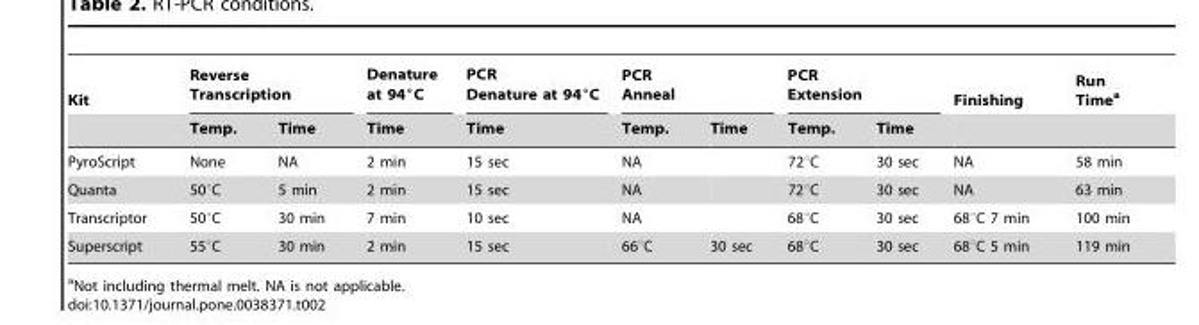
<table><thead><tr><td rowspan="2">Kit</td><td colspan="2">Reverse Transcription</td><td rowspan="2">Denature at 94°C Time</td><td rowspan="2">PCR Denature at 94°C Time</td><td colspan="2">PCR Anneal</td><td colspan="2">PCR Extension</td><td rowspan="2">Finishing</td><td rowspan="2">Run Time<sup>a</sup></td></tr><tr><td>Temp.</td><td>Time</td><td>Temp.</td><td>Time</td><td>Temp.</td><td>Time</td></tr></thead><tbody><tr><td>PyroScript</td><td>None</td><td>NA</td><td>2 min</td><td>15 sec</td><td>NA</td><td></td><td>72°C</td><td>30 sec</td><td>NA</td><td>58 min</td></tr><tr><td>Quanta</td><td>50°C</td><td>5 min</td><td>2 min</td><td>15 sec</td><td>NA</td><td></td><td>72°C</td><td>30 sec</td><td>NA</td><td>63 min</td></tr><tr><td>Transcriptor</td><td>50°C</td><td>30 min</td><td>7 min</td><td>10 sec</td><td>NA</td><td></td><td>68°C</td><td>30 sec</td><td>68°C 7 min</td><td>100 min</td></tr><tr><td>Superscript</td><td>55°C</td><td>30 min</td><td>2 min</td><td>15 sec</td><td>66°C</td><td>30 sec</td><td>68°C</td><td>30 sec</td><td>68°C 5 min</td><td>119 min</td></tr></tbody></table>